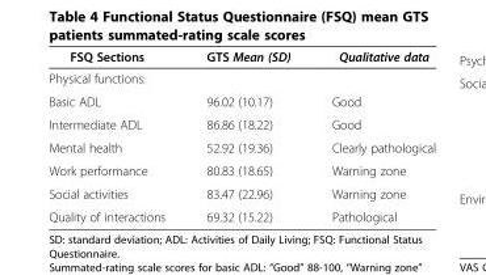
<table><thead><tr><td>FSQ Sections</td><td>GTS Mean (SD)</td><td>Qualitative data</td></tr></thead><tbody><tr><td colspan="3">Physical functions:</td></tr><tr><td>Basic ADL</td><td>96.02 (10.17)</td><td>Good</td></tr><tr><td>Intermediate ADL</td><td>86.86 (18.22)</td><td>Good</td></tr><tr><td>Mental health</td><td>52.92 (19.36)</td><td>Clearly pathological</td></tr><tr><td>Work performance</td><td>80.83 (18.65)</td><td>Warning zone</td></tr><tr><td>Social activities</td><td>83.47 (22.96)</td><td>Warning zone</td></tr><tr><td>Quality of interactions</td><td>69.32 (15.22)</td><td>Pathological</td></tr></tbody></table>